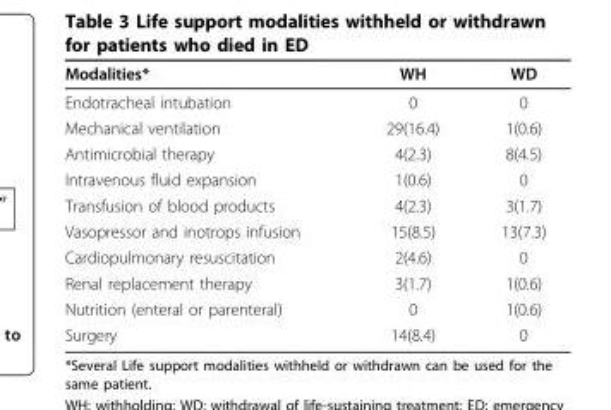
<table><thead><tr><td>Modalities*</td><td>WH</td><td>WD</td></tr></thead><tbody><tr><td>Endotracheal intubation</td><td>0</td><td>0</td></tr><tr><td>Mechanical ventilation</td><td>29(16.4)</td><td>1(0.6)</td></tr><tr><td>Antimicrobial therapy</td><td>4(2.3)</td><td>8(4.5)</td></tr><tr><td>Intravenous fluid expansion</td><td>1(0.6)</td><td>0</td></tr><tr><td>Transfusion of blood products</td><td>4(2.3)</td><td>3(1.7)</td></tr><tr><td>Vasopressor and inotrops infusion</td><td>15(8.5)</td><td>13(7.3)</td></tr><tr><td>Cardiopulmonary resuscitation</td><td>2(4.6)</td><td>0</td></tr><tr><td>Renal replacement therapy</td><td>3(1.7)</td><td>1(0.6)</td></tr><tr><td>Nutrition (enteral or parenteral)</td><td>0</td><td>1(0.6)</td></tr><tr><td>Surgery</td><td>14(8.4)</td><td>0</td></tr></tbody></table>